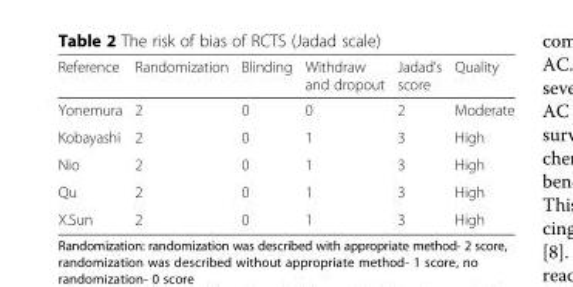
<table><thead><tr><td>Reference</td><td>Randomization</td><td>Blinding</td><td>Withdraw and dropout</td><td>Jadad’s score</td><td>Quality</td></tr></thead><tbody><tr><td>Yonemura</td><td>2</td><td>0</td><td>0</td><td>2</td><td>Moderate</td></tr><tr><td>Kobayashi</td><td>2</td><td>0</td><td>1</td><td>3</td><td>High</td></tr><tr><td>Nio</td><td>2</td><td>0</td><td>1</td><td>3</td><td>High</td></tr><tr><td>Qu</td><td>2</td><td>0</td><td>1</td><td>3</td><td>High</td></tr><tr><td>X.Sun</td><td>2</td><td>0</td><td>1</td><td>3</td><td>High</td></tr></tbody></table>